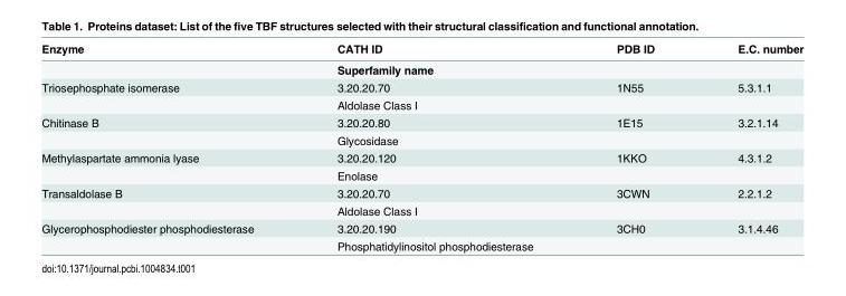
<table><thead><tr><td>Enzyme</td><td>CATH ID</td><td>PDB ID</td><td>E.C. number</td></tr></thead><tbody><tr><td></td><td>Superfamily name</td><td></td><td></td></tr><tr><td rowspan="2">Triosephosphate isomerase</td><td>3.20.20.70</td><td>1N55</td><td>5.3.1.1</td></tr><tr><td>Aldolase Class I</td><td></td><td></td></tr><tr><td rowspan="2">Chitinase B</td><td>3.20.20.80</td><td>1E15</td><td>3.2.1.14</td></tr><tr><td>Glycosidase</td><td></td><td></td></tr><tr><td rowspan="2">Methylaspartate ammonia lyase</td><td>3.20.20.120</td><td>1KKO</td><td>4.3.1.2</td></tr><tr><td>Enolase</td><td></td><td></td></tr><tr><td rowspan="2">Transaldolase B</td><td>3.20.20.70</td><td>3CWN</td><td>2.2.1.2</td></tr><tr><td>Aldolase Class I</td><td></td><td></td></tr><tr><td rowspan="2">Glycerophosphodiester phosphodiesterase</td><td>3.20.20.190</td><td>3CH0</td><td>3.1.4.46</td></tr><tr><td>Phosphatidylinositol phosphodiesterase</td><td></td><td></td></tr></tbody></table>